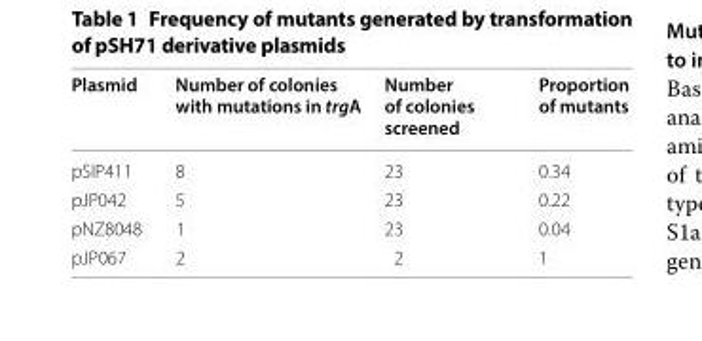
<table><thead><tr><td>Plasmid</td><td>Number of colonies with mutations in trgA</td><td>Number of colonies screened</td><td>Proportion of mutants</td></tr></thead><tbody><tr><td>pSIP411</td><td>8</td><td>23</td><td>0.34</td></tr><tr><td>pJP042</td><td>5</td><td>23</td><td>0.22</td></tr><tr><td>pNZ8048</td><td>1</td><td>23</td><td>0.04</td></tr><tr><td>pJP067</td><td>2</td><td>2</td><td>1</td></tr></tbody></table>